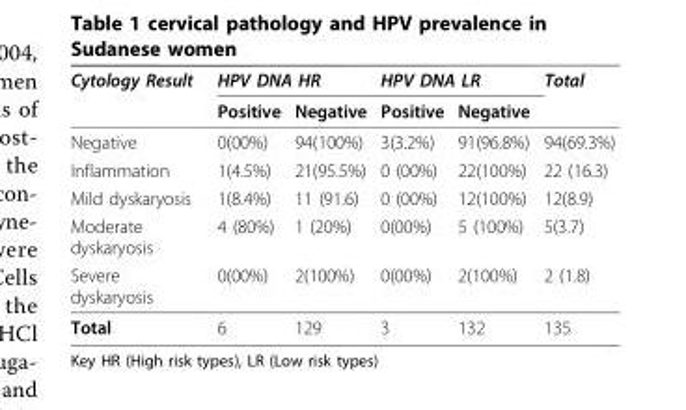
<table><thead><tr><td rowspan="2">Cytology Result</td><td colspan="2">HPV DNA HR</td><td colspan="2">HPV DNA LR</td><td rowspan="2">Total</td></tr><tr><td>Positive</td><td>Negative</td><td>Positive</td><td>Negative</td></tr></thead><tbody><tr><td>Negative</td><td>0(00%)</td><td>94(100%)</td><td>3(3.2%)</td><td>91(96.8%)</td><td>94(69.3%)</td></tr><tr><td>Inflammation</td><td>1(4.5%)</td><td>21(95.5%)</td><td>0 (00%)</td><td>22(100%)</td><td>22 (16.3)</td></tr><tr><td>Mild dyskaryosis</td><td>1(8.4%)</td><td>11 (91.6)</td><td>0 (00%)</td><td>12(100%)</td><td>12(8.9)</td></tr><tr><td>Moderate dyskaryosis</td><td>4 (80%)</td><td>1 (20%)</td><td>0(00%)</td><td>5 (100%)</td><td>5(3.7)</td></tr><tr><td>Severe dyskaryosis</td><td>0(00%)</td><td>2(100%)</td><td>0(00%)</td><td>2(100%)</td><td>2 (1.8)</td></tr><tr><td>Total</td><td>6</td><td>129</td><td>3</td><td>132</td><td>135</td></tr></tbody></table>